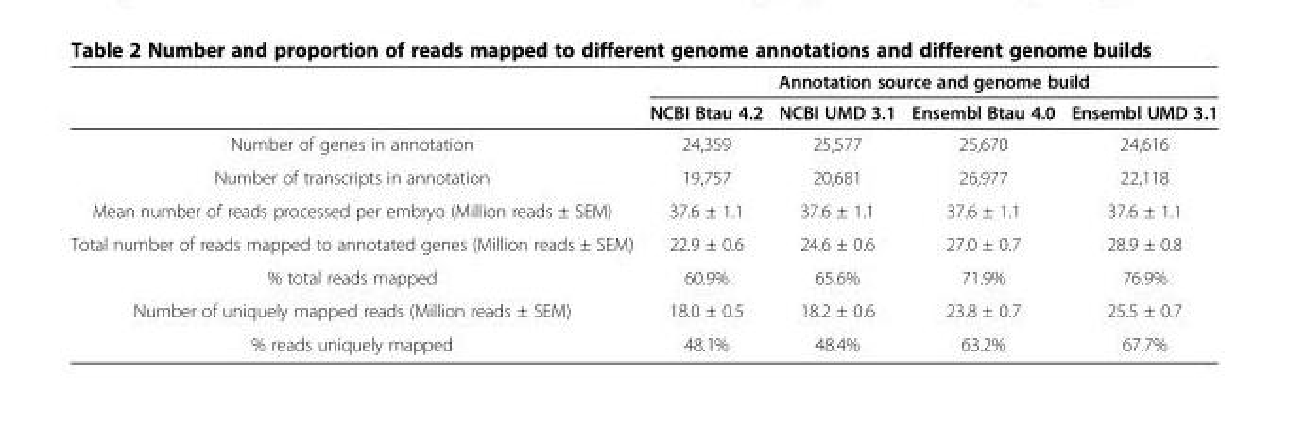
<table><thead><tr><td rowspan="2"></td><td colspan="4">Annotation source and genome build</td></tr><tr><td>NCBI Btau 4.2</td><td>NCBI UMD 3.1</td><td>Ensembl Btau 4.0</td><td>Ensembl UMD 3.1</td></tr></thead><tbody><tr><td>Number of genes in annotation</td><td>24,359</td><td>25,577</td><td>25,670</td><td>24,616</td></tr><tr><td>Number of transcripts in annotation</td><td>19,757</td><td>20,681</td><td>26,977</td><td>22,118</td></tr><tr><td>Mean number of reads processed per embryo (Million reads ± SEM)</td><td>37.6 ± 1.1</td><td>37.6 ± 1.1</td><td>37.6 ± 1.1</td><td>37.6 ± 1.1</td></tr><tr><td>Total number of reads mapped to annotated genes (Million reads ± SEM)</td><td>22.9 ± 0.6</td><td>24.6 ± 0.6</td><td>27.0 ± 0.7</td><td>28.9 ± 0.8</td></tr><tr><td>% total reads mapped</td><td>60.9%</td><td>65.6%</td><td>71.9%</td><td>76.9%</td></tr><tr><td>Number of uniquely mapped reads (Million reads ± SEM)</td><td>18.0 ± 0.5</td><td>18.2 ± 0.6</td><td>23.8 ± 0.7</td><td>25.5 ± 0.7</td></tr><tr><td>% reads uniquely mapped</td><td>48.1%</td><td>48.4%</td><td>63.2%</td><td>67.7%</td></tr></tbody></table>